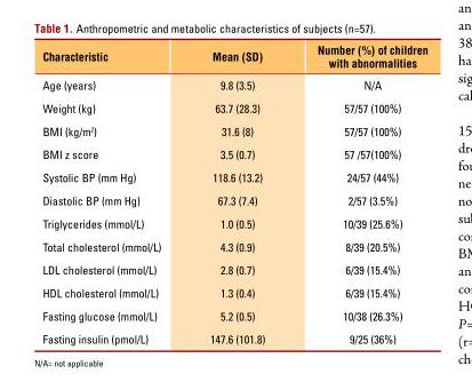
<table><thead><tr><td>Characteristic</td><td>Mean (SD)</td><td>Number (%) of children with abnormalities</td></tr></thead><tbody><tr><td>Age (years)</td><td>9.8 (3.5)</td><td>N/A</td></tr><tr><td>Weight (kg)</td><td>63.7 (28.3)</td><td>57/57 (100%)</td></tr><tr><td>BMI (kg/m<sup>2</sup>)</td><td>31.6 (8)</td><td>57/57 (100%)</td></tr><tr><td>BMI z score</td><td>3.5 (0.7)</td><td>57 /57(100%)</td></tr><tr><td>Systolic BP (mm Hg)</td><td>118.6 (13.2)</td><td>24/57 (44%)</td></tr><tr><td>Diastolic BP (mm Hg)</td><td>67.3 (7.4)</td><td>2/57 (3.5%)</td></tr><tr><td>Triglycerides (mmol/L)</td><td>1.0 (0.5)</td><td>10/39 (25.6%)</td></tr><tr><td>Total cholesterol (mmol/L)</td><td>4.3 (0.9)</td><td>8/39 (20.5%)</td></tr><tr><td>LDL cholesterol (mmol/L)</td><td>2.8 (0.7)</td><td>6/39 (15.4%)</td></tr><tr><td>HDL cholesterol (mmol/L)</td><td>1.3 (0.4)</td><td>6/39 (15.4%)</td></tr><tr><td>Fasting glucose (mmol/L)</td><td>5.2 (0.5)</td><td>10/38 (26.3%)</td></tr><tr><td>Fasting insulin (pmol/L)</td><td>147.6 (101.8)</td><td>9/25 (36%)</td></tr></tbody></table>